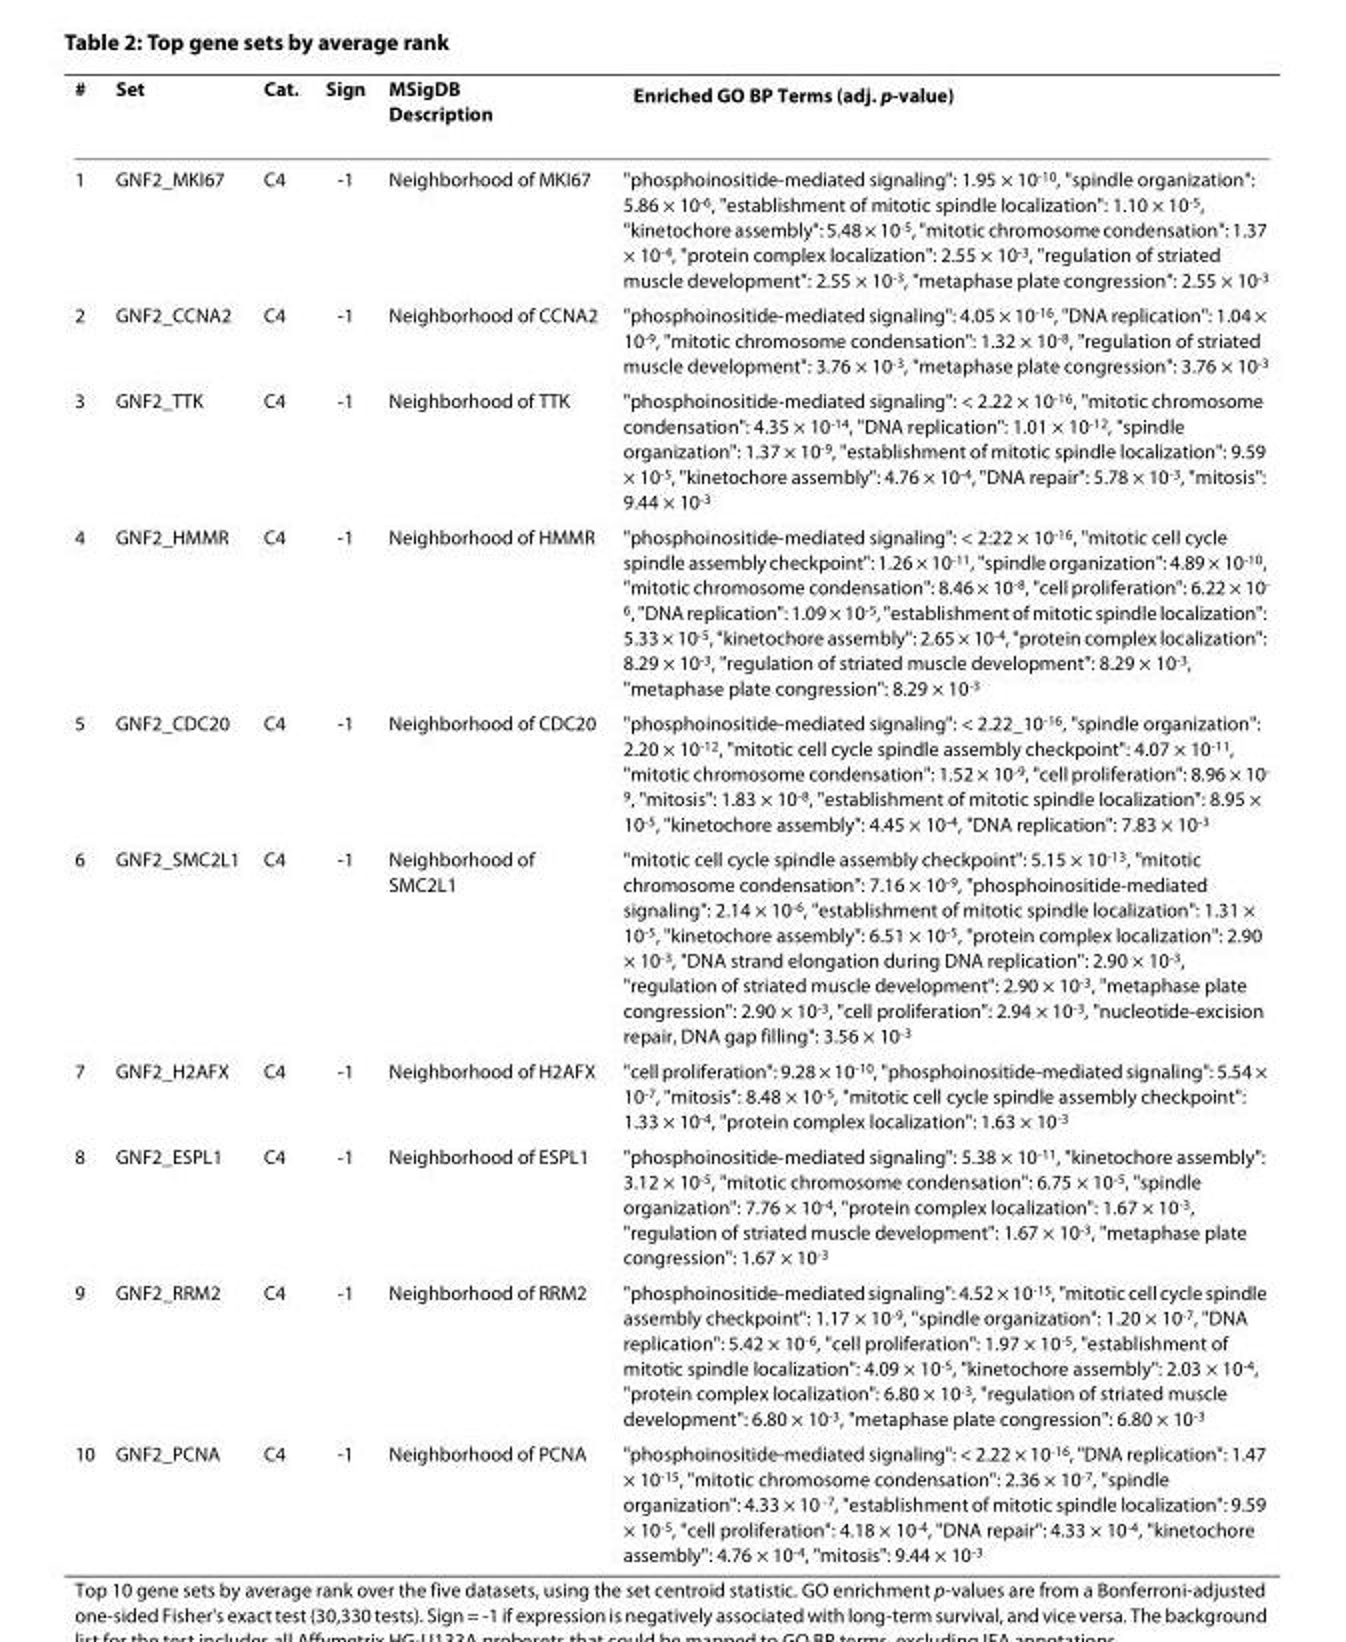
<table><thead><tr><td>#</td><td>Set</td><td>Cat.</td><td>Sign</td><td>MSigDB Description</td><td>Enriched GO BP Terms (adj. p-value)</td></tr></thead><tbody><tr><td>1</td><td>GNF2_MKI67</td><td>C4</td><td>-1</td><td>Neighborhood of MKI67</td><td>&quot;phosphoinositide-mediated signaling&quot;: 1.95 × 10<sup>-10</sup>, &quot;spindle organization&quot;: 5.86 × 10<sup>-6</sup>, &quot;establishment of mitotic spindle localization&quot;: 1.10 × 10<sup>-5</sup>, &quot;kinetochore assembly&quot;: 5.48 × 10<sup>-5</sup>, &quot;mitotic chromosome condensation&quot;: 1.37 × 10<sup>-4</sup>, &quot;protein complex localization&quot;: 2.55 × 10<sup>-3</sup>, &quot;regulation of striated muscle development&quot;: 2.55 × 10<sup>-3</sup>, &quot;metaphase plate congression&quot;: 2.55 × 10<sup>-3</sup></td></tr><tr><td>2</td><td>GNF2_CCNA2</td><td>C4</td><td>-1</td><td>Neighborhood of CCNA2</td><td>&quot;phosphoinositide-mediated signaling&quot;: 4.05 × 10<sup>-16</sup>, &quot;DNA replication&quot;: 1.04 × 10<sup>-9</sup>, &quot;mitotic chromosome condensation&quot;: 1.32 × 10<sup>-8</sup>, &quot;regulation of striated muscle development&quot;: 3.76 × 10<sup>-3</sup>, &quot;metaphase plate congression&quot;: 3.76 × 10<sup>-3</sup></td></tr><tr><td>3</td><td>GNF2_TTK</td><td>C4</td><td>-1</td><td>Neighborhood of TTK</td><td>&quot;phosphoinositide-mediated signaling&quot;: &lt; 2.22 × 10<sup>-16</sup>, &quot;mitotic chromosome condensation&quot;: 4.35 × 10<sup>-14</sup>, &quot;DNA replication&quot;: 1.01 × 10<sup>-12</sup>, &quot;spindle organization&quot;: 1.37 × 10<sup>-9</sup>, &quot;establishment of mitotic spindle localization&quot;: 9.59 × 10<sup>-5</sup>, &quot;kinetochore assembly&quot;: 4.76 × 10<sup>-4</sup>, &quot;DNA repair&quot;: 5.78 × 10<sup>-3</sup>, &quot;mitosis&quot;: 9.44 × 10<sup>-3</sup></td></tr><tr><td>4</td><td>GNF2_HMMR</td><td>C4</td><td>-1</td><td>Neighborhood of HMMR</td><td>&quot;phosphoinositide-mediated signaling&quot;: &lt; 2:22 × 10<sup>-16</sup>, &quot;mitotic cell cycle spindle assembly checkpoint&quot;: 1.26 × 10<sup>-11</sup>, &quot;spindle organization&quot;: 4.89 × 10<sup>-10</sup>, &quot;mitotic chromosome condensation&quot;: 8.46 × 10<sup>-8</sup>, &quot;cell proliferation&quot;: 6.22 × 10<sup>- 6</sup>, &quot;DNA replication&quot;: 1.09 × 10<sup>-5</sup>, &quot;establishment of mitotic spindle localization&quot;: 5.33 × 10<sup>-5</sup>, &quot;kinetochore assembly&quot;: 2.65 × 10<sup>-4</sup>, &quot;protein complex localization&quot;: 8.29 × 10<sup>-3</sup>, &quot;regulation of striated muscle development&quot;: 8.29 × 10<sup>-3</sup>, &quot;metaphase plate congression&quot;: 8.29 × 10<sup>-3</sup></td></tr><tr><td>5</td><td>GNF2_CDC20</td><td>C4</td><td>-1</td><td>Neighborhood of CDC20</td><td>&quot;phosphoinositide-mediated signaling&quot;: &lt; 2.22_10<sup>-16</sup>, &quot;spindle organization&quot;: 2.20 × 10<sup>-12</sup>, &quot;mitotic cell cycle spindle assembly checkpoint&quot;: 4.07 × 10<sup>-11</sup>, &quot;mitotic chromosome condensation&quot;: 1.52 × 10<sup>-9</sup>, &quot;cell proliferation&quot;: 8.96 × 10<sup>- 9</sup>, &quot;mitosis&quot;: 1.83 × 10<sup>-8</sup>, &quot;establishment of mitotic spindle localization&quot;: 8.95 × 10<sup>-5</sup>, &quot;kinetochore assembly&quot;: 4.45 × 10<sup>-4</sup>, &quot;DNA replication&quot;: 7.83 × 10<sup>-3</sup></td></tr><tr><td>6</td><td>GNF2_SMC2L1</td><td>C4</td><td>-1</td><td>Neighborhood of SMC2L1</td><td>&quot;mitotic cell cycle spindle assembly checkpoint&quot;: 5.15 × 10<sup>-13</sup>, &quot;mitotic chromosome condensation&quot;: 7.16 × 10<sup>-9</sup>, &quot;phosphoinositide-mediated signaling&quot;: 2.14 × 10<sup>-6</sup>, &quot;establishment of mitotic spindle localization&quot;: 1.31 × 10<sup>-5</sup>, &quot;kinetochore assembly&quot;: 6.51 × 10<sup>-5</sup>, &quot;protein complex localization&quot;: 2.90 × 10<sup>-3</sup>, &quot;DNA strand elongation during DNA replication&quot;: 2.90 × 10<sup>-3</sup>, &quot;regulation of striated muscle development&quot;: 2.90 × 10<sup>-3</sup>, &quot;metaphase plate congression&quot;: 2.90 × 10<sup>-3</sup>, &quot;cell proliferation&quot;: 2.94 × 10<sup>-3</sup>, &quot;nucleotide-excision repair, DNA gap filling&quot;: 3.56 × 10<sup>-3</sup></td></tr><tr><td>7</td><td>GNF2_H2AFX</td><td>C4</td><td>-1</td><td>Neighborhood of H2AFX</td><td>&quot;cell proliferation&quot;: 9.28 × 10<sup>-10</sup>, &quot;phosphoinositide-mediated signaling&quot;: 5.54 × 10<sup>-7</sup>, &quot;mitosis&quot;: 8.48 × 10<sup>-5</sup>, &quot;mitotic cell cycle spindle assembly checkpoint&quot;: 1.33 × 10<sup>-4</sup>, &quot;protein complex localization&quot;: 1.63 × 10<sup>-3</sup></td></tr><tr><td>8</td><td>GNF2_ESPL1</td><td>C4</td><td>-1</td><td>Neighborhood of ESPL1</td><td>&quot;phosphoinositide-mediated signaling&quot;: 5.38 × 10<sup>-11</sup>, &quot;kinetochore assembly&quot;: 3.12 × 10<sup>-5</sup>, &quot;mitotic chromosome condensation&quot;: 6.75 × 10<sup>-5</sup>, &quot;spindle organization&quot;: 7.76 × 10<sup>-4</sup>, &quot;protein complex localization&quot;: 1.67 × 10<sup>-3</sup>, &quot;regulation of striated muscle development&quot;: 1.67 × 10<sup>-3</sup>, &quot;metaphase plate congression&quot;: 1.67 × 10<sup>-3</sup></td></tr><tr><td>9</td><td>GNF2_RRM2</td><td>C4</td><td>-1</td><td>Neighborhood of RRM2</td><td>&quot;phosphoinositide-mediated signaling&quot;: 4.52 × 10<sup>-15</sup>, &quot;mitotic cell cycle spindle assembly checkpoint&quot;: 1.17 × 10<sup>-9</sup>, &quot;spindle organization&quot;: 1.20 × 10<sup>-7</sup>, &quot;DNA replication&quot;: 5.42 × 10<sup>-6</sup>, &quot;cell proliferation&quot;: 1.97 × 10<sup>-5</sup>, &quot;establishment of mitotic spindle localization&quot;: 4.09 × 10<sup>-5</sup>, &quot;kinetochore assembly&quot;: 2.03 × 10<sup>-4</sup>, &quot;protein complex localization&quot;: 6.80 × 10<sup>-3</sup>, &quot;regulation of striated muscle development&quot;: 6.80 × 10<sup>-3</sup>, &quot;metaphase plate congression&quot;: 6.80 × 10<sup>-3</sup></td></tr><tr><td>10</td><td>GNF2_PCNA</td><td>C4</td><td>-1</td><td>Neighborhood of PCNA</td><td>&quot;phosphoinositide-mediated signaling&quot;: &lt; 2.22 × 10<sup>-16</sup>, &quot;DNA replication&quot;: 1.47 × 10<sup>-15</sup>, &quot;mitotic chromosome condensation&quot;: 2.36 × 10<sup>-7</sup>, &quot;spindle organization&quot;: 4.33 × 10 <sup>-7</sup>, &quot;establishment of mitotic spindle localization&quot;: 9.59 × 10<sup>-5</sup>, &quot;cell proliferation&quot;: 4.18 × 10<sup>-4</sup>, &quot;DNA repair&quot;: 4.33 × 10<sup>-4</sup>, &quot;kinetochore assembly&quot;: 4.76 × 10<sup>-4</sup>, &quot;mitosis&quot;: 9.44 × 10<sup>-3</sup></td></tr></tbody></table>